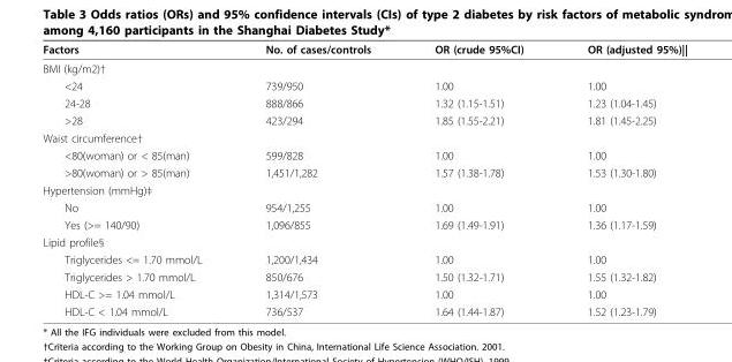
<table><thead><tr><td>Factors</td><td>No. of cases/controls</td><td>OR (crude 95%CI)</td><td>OR (adjusted 95%)||</td></tr></thead><tbody><tr><td colspan="4">BMI (kg/m2)†</td></tr><tr><td>&lt;24</td><td>739/950</td><td>1.00</td><td>1.00</td></tr><tr><td>24-28</td><td>888/866</td><td>1.32 (1.15-1.51)</td><td>1.23 (1.04-1.45)</td></tr><tr><td>&gt;28</td><td>423/294</td><td>1.85 (1.55-2.21)</td><td>1.81 (1.45-2.25)</td></tr><tr><td colspan="4">Waist circumference†</td></tr><tr><td>&lt;80(woman) or &lt; 85(man)</td><td>599/828</td><td>1.00</td><td>1.00</td></tr><tr><td>&gt;80(woman) or &gt; 85(man)</td><td>1,451/1,282</td><td>1.57 (1.38-1.78)</td><td>1.53 (1.30-1.80)</td></tr><tr><td colspan="4">Hypertension (mmHg)‡</td></tr><tr><td>No</td><td>954/1,255</td><td>1.00</td><td>1.00</td></tr><tr><td>Yes (&gt;= 140/90)</td><td>1,096/855</td><td>1.69 (1.49-1.91)</td><td>1.36 (1.17-1.59)</td></tr><tr><td colspan="4">Lipid profile§</td></tr><tr><td>Triglycerides &lt;= 1.70 mmol/L</td><td>1,200/1,434</td><td>1.00</td><td>1.00</td></tr><tr><td>Triglycerides &gt; 1.70 mmol/L</td><td>850/676</td><td>1.50 (1.32-1.71)</td><td>1.55 (1.32-1.82)</td></tr><tr><td>HDL-C &gt;= 1.04 mmol/L</td><td>1,314/1,573</td><td>1.00</td><td>1.00</td></tr><tr><td>HDL-C &lt; 1.04 mmol/L</td><td>736/537</td><td>1.64 (1.44-1.87)</td><td>1.52 (1.23-1.79)</td></tr></tbody></table>